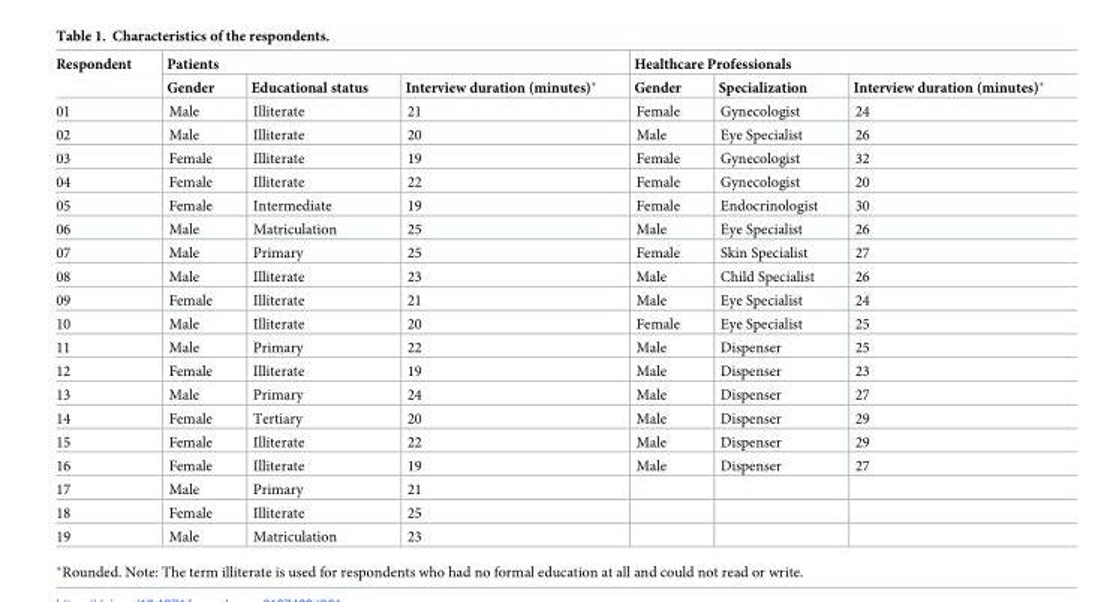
<table><thead><tr><td rowspan="2">Respondent</td><td colspan="3">Patients</td><td colspan="3">Healthcare Professionals</td></tr><tr><td>Gender</td><td>Educational status</td><td>Interview duration (minutes)*</td><td>Gender</td><td>Specialization</td><td>Interview duration (minutes)*</td></tr></thead><tbody><tr><td>01</td><td>Male</td><td>Illiterate</td><td>21</td><td>Female</td><td>Gynecologist</td><td>24</td></tr><tr><td>02</td><td>Male</td><td>Illiterate</td><td>20</td><td>Male</td><td>Eye Specialist</td><td>26</td></tr><tr><td>03</td><td>Female</td><td>Illiterate</td><td>19</td><td>Female</td><td>Gynecologist</td><td>32</td></tr><tr><td>04</td><td>Female</td><td>Illiterate</td><td>22</td><td>Female</td><td>Gynecologist</td><td>20</td></tr><tr><td>05</td><td>Female</td><td>Intermediate</td><td>19</td><td>Female</td><td>Endocrinologist</td><td>30</td></tr><tr><td>06</td><td>Male</td><td>Matriculation</td><td>25</td><td>Male</td><td>Eye Specialist</td><td>26</td></tr><tr><td>07</td><td>Male</td><td>Primary</td><td>25</td><td>Female</td><td>Skin Specialist</td><td>27</td></tr><tr><td>08</td><td>Male</td><td>Illiterate</td><td>23</td><td>Male</td><td>Child Specialist</td><td>26</td></tr><tr><td>09</td><td>Female</td><td>Illiterate</td><td>21</td><td>Male</td><td>Eye Specialist</td><td>24</td></tr><tr><td>10</td><td>Male</td><td>Illiterate</td><td>20</td><td>Female</td><td>Eye Specialist</td><td>25</td></tr><tr><td>11</td><td>Male</td><td>Primary</td><td>22</td><td>Male</td><td>Dispenser</td><td>25</td></tr><tr><td>12</td><td>Female</td><td>Illiterate</td><td>19</td><td>Male</td><td>Dispenser</td><td>23</td></tr><tr><td>13</td><td>Male</td><td>Primary</td><td>24</td><td>Male</td><td>Dispenser</td><td>27</td></tr><tr><td>14</td><td>Female</td><td>Tertiary</td><td>20</td><td>Male</td><td>Dispenser</td><td>29</td></tr><tr><td>15</td><td>Female</td><td>Illiterate</td><td>22</td><td>Male</td><td>Dispenser</td><td>29</td></tr><tr><td>16</td><td>Female</td><td>Illiterate</td><td>19</td><td>Male</td><td>Dispenser</td><td>27</td></tr><tr><td>17</td><td>Male</td><td>Primary</td><td>21</td><td></td><td></td><td></td></tr><tr><td>18</td><td>Female</td><td>Illiterate</td><td>25</td><td></td><td></td><td></td></tr><tr><td>19</td><td>Male</td><td>Matriculation</td><td>23</td><td></td><td></td><td></td></tr></tbody></table>